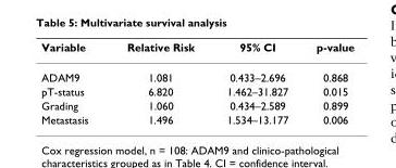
<table><thead><tr><td>Variable</td><td>Relative Risk</td><td>95% CI</td><td>p-value</td></tr></thead><tbody><tr><td>ADAM9</td><td>1.081</td><td>0.433–2.696</td><td>0.868</td></tr><tr><td>pT-status</td><td>6.820</td><td>1.462–31.827</td><td>0.015</td></tr><tr><td>Grading</td><td>1.060</td><td>0.434–2.589</td><td>0.899</td></tr><tr><td>Metastasis</td><td>1.496</td><td>1.534–13.177</td><td>0.006</td></tr></tbody></table>